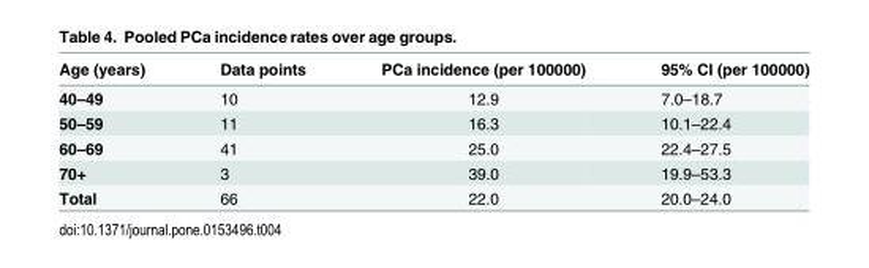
<table><thead><tr><td>Age (years)</td><td>Data points</td><td>PCa incidence (per 100000)</td><td>95% CI (per 100000)</td></tr></thead><tbody><tr><td>40–49</td><td>10</td><td>12.9</td><td>7.0–18.7</td></tr><tr><td>50–59</td><td>11</td><td>16.3</td><td>10.1–22.4</td></tr><tr><td>60–69</td><td>41</td><td>25.0</td><td>22.4–27.5</td></tr><tr><td>70+</td><td>3</td><td>39.0</td><td>19.9–53.3</td></tr><tr><td>Total</td><td>66</td><td>22.0</td><td>20.0–24.0</td></tr></tbody></table>